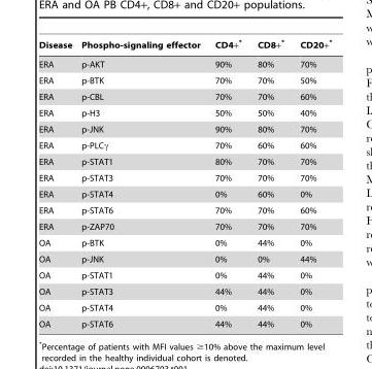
<table><thead><tr><td>Disease</td><td>Phospho-signaling effector</td><td>CD4+*</td><td>CD8+*</td><td>CD20+*</td></tr></thead><tbody><tr><td>ERA</td><td>p-AKT</td><td>90%</td><td>80%</td><td>70%</td></tr><tr><td>ERA</td><td>p-BTK</td><td>70%</td><td>70%</td><td>50%</td></tr><tr><td>ERA</td><td>p-CBL</td><td>70%</td><td>70%</td><td>60%</td></tr><tr><td>ERA</td><td>p-H3</td><td>50%</td><td>50%</td><td>40%</td></tr><tr><td>ERA</td><td>p-JNK</td><td>90%</td><td>80%</td><td>70%</td></tr><tr><td>ERA</td><td>p-PLCγ</td><td>70%</td><td>60%</td><td>60%</td></tr><tr><td>ERA</td><td>p-STAT1</td><td>80%</td><td>70%</td><td>70%</td></tr><tr><td>ERA</td><td>p-STAT3</td><td>70%</td><td>70%</td><td>70%</td></tr><tr><td>ERA</td><td>p-STAT4</td><td>0%</td><td>60%</td><td>0%</td></tr><tr><td>ERA</td><td>p-STAT6</td><td>70%</td><td>70%</td><td>60%</td></tr><tr><td>ERA</td><td>p-ZAP70</td><td>70%</td><td>70%</td><td>70%</td></tr><tr><td>OA</td><td>p-BTK</td><td>0%</td><td>44%</td><td>0%</td></tr><tr><td>OA</td><td>p-JNK</td><td>0%</td><td>0%</td><td>44%</td></tr><tr><td>OA</td><td>p-STAT1</td><td>0%</td><td>44%</td><td>0%</td></tr><tr><td>OA</td><td>p-STAT3</td><td>44%</td><td>44%</td><td>0%</td></tr><tr><td>OA</td><td>p-STAT4</td><td>0%</td><td>44%</td><td>0%</td></tr><tr><td>OA</td><td>p-STAT6</td><td>44%</td><td>44%</td><td>0%</td></tr></tbody></table>